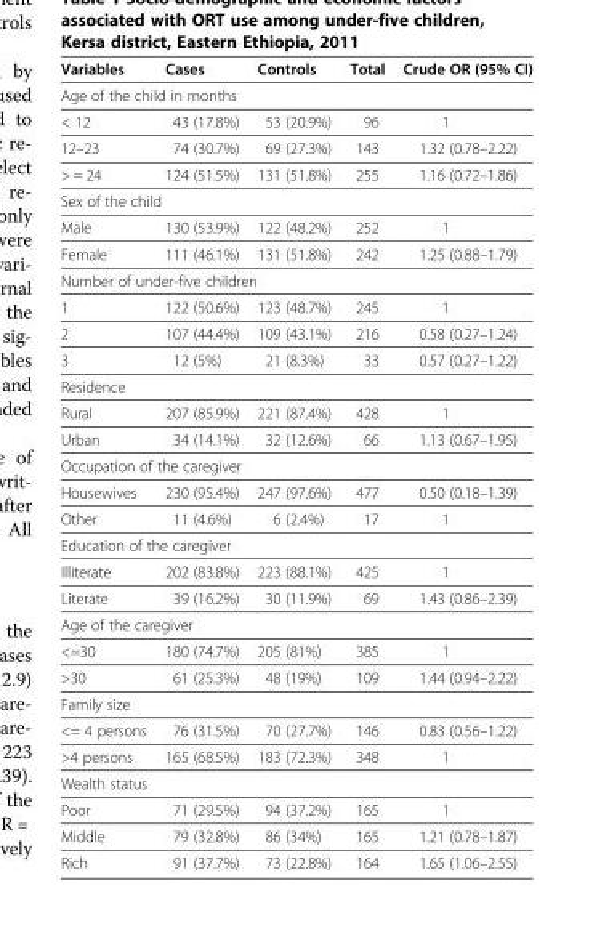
<table><thead><tr><td>Variables</td><td>Cases</td><td>Controls</td><td>Total</td><td>Crude OR (95% CI)</td></tr></thead><tbody><tr><td colspan="5">Age of the child in months</td></tr><tr><td>&lt; 12</td><td>43 (17.8%)</td><td>53 (20.9%)</td><td>96</td><td>1</td></tr><tr><td>12–23</td><td>74 (30.7%)</td><td>69 (27.3%)</td><td>143</td><td>1.32 (0.78–2.22)</td></tr><tr><td>&gt; = 24</td><td>124 (51.5%)</td><td>131 (51.8%)</td><td>255</td><td>1.16 (0.72–1.86)</td></tr><tr><td colspan="5">Sex of the child</td></tr><tr><td>Male</td><td>130 (53.9%)</td><td>122 (48.2%)</td><td>252</td><td>1</td></tr><tr><td>Female</td><td>111 (46.1%)</td><td>131 (51.8%)</td><td>242</td><td>1.25 (0.88–1.79)</td></tr><tr><td colspan="5">Number of under-five children</td></tr><tr><td>1</td><td>122 (50.6%)</td><td>123 (48.7%)</td><td>245</td><td>1</td></tr><tr><td>2</td><td>107 (44.4%)</td><td>109 (43.1%)</td><td>216</td><td>0.58 (0.27–1.24)</td></tr><tr><td>3</td><td>12 (5%)</td><td>21 (8.3%)</td><td>33</td><td>0.57 (0.27–1.22)</td></tr><tr><td colspan="5">Residence</td></tr><tr><td>Rural</td><td>207 (85.9%)</td><td>221 (87.4%)</td><td>428</td><td>1</td></tr><tr><td>Urban</td><td>34 (14.1%)</td><td>32 (12.6%)</td><td>66</td><td>1.13 (0.67–1.95)</td></tr><tr><td colspan="5">Occupation of the caregiver</td></tr><tr><td>Housewives</td><td>230 (95.4%)</td><td>247 (97.6%)</td><td>477</td><td>0.50 (0.18–1.39)</td></tr><tr><td>Other</td><td>11 (4.6%)</td><td>6 (2.4%)</td><td>17</td><td>1</td></tr><tr><td colspan="5">Education of the caregiver</td></tr><tr><td>Illiterate</td><td>202 (83.8%)</td><td>223 (88.1%)</td><td>425</td><td>1</td></tr><tr><td>Literate</td><td>39 (16.2%)</td><td>30 (11.9%)</td><td>69</td><td>1.43 (0.86–2.39)</td></tr><tr><td colspan="5">Age of the caregiver</td></tr><tr><td>&lt;=30</td><td>180 (74.7%)</td><td>205 (81%)</td><td>385</td><td>1</td></tr><tr><td>&gt;30</td><td>61 (25.3%)</td><td>48 (19%)</td><td>109</td><td>1.44 (0.94–2.22)</td></tr><tr><td colspan="5">Family size</td></tr><tr><td>&lt;= 4 persons</td><td>76 (31.5%)</td><td>70 (27.7%)</td><td>146</td><td>0.83 (0.56–1.22)</td></tr><tr><td>&gt;4 persons</td><td>165 (68.5%)</td><td>183 (72.3%)</td><td>348</td><td>1</td></tr><tr><td colspan="5">Wealth status</td></tr><tr><td>Poor</td><td>71 (29.5%)</td><td>94 (37.2%)</td><td>165</td><td>1</td></tr><tr><td>Middle</td><td>79 (32.8%)</td><td>86 (34%)</td><td>165</td><td>1.21 (0.78–1.87)</td></tr><tr><td>Rich</td><td>91 (37.7%)</td><td>73 (22.8%)</td><td>164</td><td>1.65 (1.06–2.55)</td></tr></tbody></table>